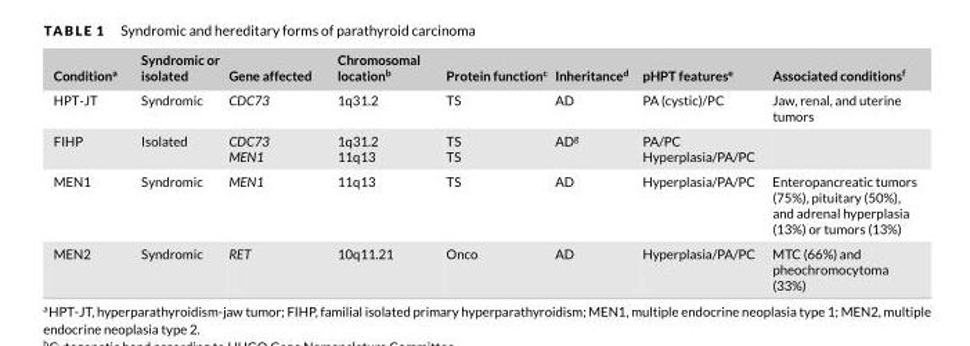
<table><thead><tr><td>Condition<sup>a</sup></td><td>Syndromic or isolated</td><td>Gene affected</td><td>Chromosomal location<sup>b</sup></td><td>Protein function<sup>c</sup></td><td>Inheritance<sup>d</sup></td><td>pHPT features<sup>e</sup></td><td>Associated conditions<sup>f</sup></td></tr></thead><tbody><tr><td>HPT-JT</td><td>Syndromic</td><td>CDC73</td><td>1q31.2</td><td>TS</td><td>AD</td><td>PA (cystic)/PC</td><td>Jaw, renal, and uterine tumors</td></tr><tr><td>FIHP</td><td>Isolated</td><td>CDC73 MEN1</td><td>1q31.2 11q13</td><td>TS TS</td><td>AD<sup>g</sup></td><td>PA/PC Hyperplasia/PA/PC</td><td></td></tr><tr><td>MEN1</td><td>Syndromic</td><td>MEN1</td><td>11q13</td><td>TS</td><td>AD</td><td>Hyperplasia/PA/PC</td><td>Enteropancreatic tumors (75%), pituitary (50%), and adrenal hyperplasia (13%) or tumors (13%)</td></tr><tr><td>MEN2</td><td>Syndromic</td><td>RET</td><td>10q11.21</td><td>Onco</td><td>AD</td><td>Hyperplasia/PA/PC</td><td>MTC (66%) and pheochromocytoma (33%)</td></tr></tbody></table>